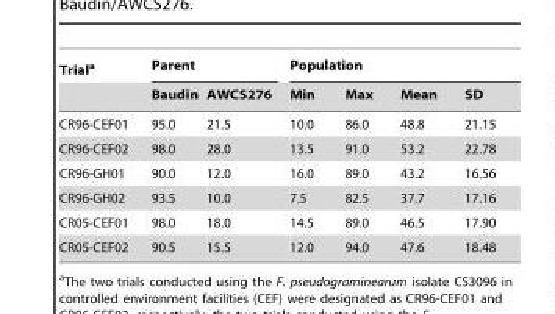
<table><thead><tr><td rowspan="2">Trial<sup>a</sup></td><td colspan="2">Parent</td><td colspan="4">Population</td></tr><tr><td>Baudin</td><td>AWCS276</td><td>Min</td><td>Max</td><td>Mean</td><td>SD</td></tr></thead><tbody><tr><td>CR96-CEF01</td><td>95.0</td><td>21.5</td><td>10.0</td><td>86.0</td><td>48.8</td><td>21.15</td></tr><tr><td>CR96-CEF02</td><td>98.0</td><td>28.0</td><td>13.5</td><td>91.0</td><td>53.2</td><td>22.78</td></tr><tr><td>CR96-GH01</td><td>90.0</td><td>12.0</td><td>16.0</td><td>89.0</td><td>43.2</td><td>16.56</td></tr><tr><td>CR96-GH02</td><td>93.5</td><td>10.0</td><td>7.5</td><td>82.5</td><td>37.7</td><td>17.16</td></tr><tr><td>CR05-CEF01</td><td>98.0</td><td>18.0</td><td>14.5</td><td>89.0</td><td>46.5</td><td>17.90</td></tr><tr><td>CR05-CEF02</td><td>90.5</td><td>15.5</td><td>12.0</td><td>94.0</td><td>47.6</td><td>18.48</td></tr></tbody></table>